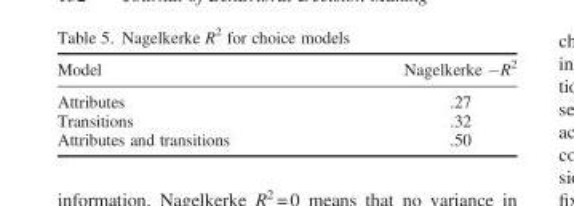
<table><thead><tr><td>Model</td><td>Nagelkerke −R<sup>2</sup></td></tr></thead><tbody><tr><td>Attributes</td><td>.27</td></tr><tr><td>Transitions</td><td>.32</td></tr><tr><td>Attributes and transitions</td><td>.50</td></tr></tbody></table>